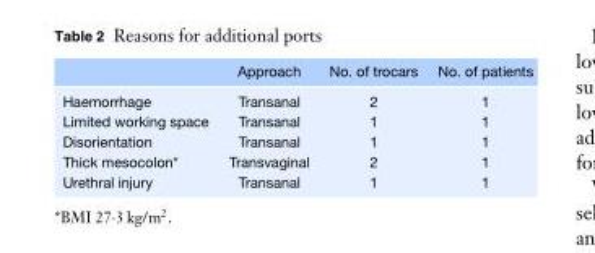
<table><thead><tr><td></td><td>Approach</td><td>No. of trocars</td><td>No. of patients</td></tr></thead><tbody><tr><td>Haemorrhage</td><td>Transanal</td><td>2</td><td>1</td></tr><tr><td>Limited working space</td><td>Transanal</td><td>1</td><td>1</td></tr><tr><td>Disorientation</td><td>Transanal</td><td>1</td><td>1</td></tr><tr><td>Thick mesocolon*</td><td>Transvaginal</td><td>2</td><td>1</td></tr><tr><td>Urethral injury</td><td>Transanal</td><td>1</td><td>1</td></tr></tbody></table>